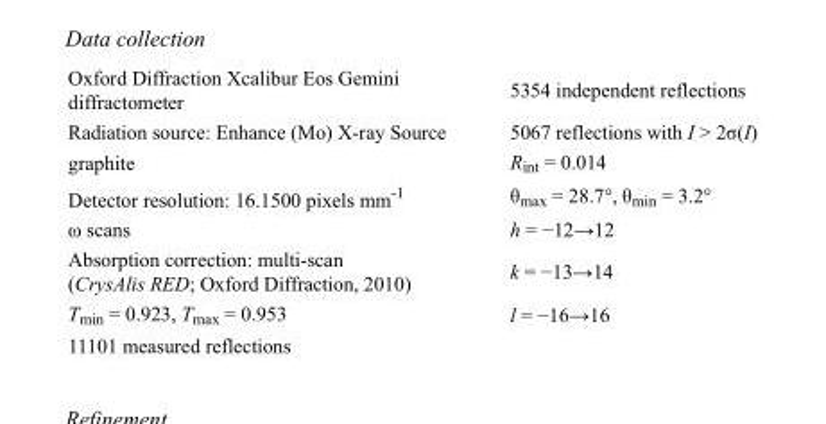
<table><tbody><tr><td>Oxford Diffraction Xcalibur Eos Gemini diffractometer</td><td>5354 independent reflections</td></tr><tr><td>Radiation source: Enhance (Mo) X-ray Source</td><td>5067 reflections with I &gt; 2σ(I)</td></tr><tr><td>graphite</td><td>R<sub>int</sub> = 0.014</td></tr><tr><td>Detector resolution: 16.1500 pixels mm<sup>-1</sup></td><td>θ<sub>max</sub> = 28.7°, θ<sub>min</sub> = 3.2°</td></tr><tr><td>ω scans</td><td>h = −12→12</td></tr><tr><td>Absorption correction: multi-scan (CrysAlis RED; Oxford Diffraction, 2010)</td><td>k = −13→14</td></tr><tr><td>T<sub>min</sub> = 0.923, T<sub>max</sub> = 0.953</td><td>l = −16→16</td></tr><tr><td>11101 measured reflections</td><td></td></tr></tbody></table>